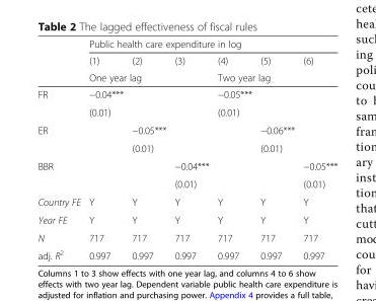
<table><thead><tr><td rowspan="3"></td><td colspan="6">Public health care expenditure in log</td></tr><tr><td>(1)</td><td>(2)</td><td>(3)</td><td>(4)</td><td>(5)</td><td>(6)</td></tr><tr><td colspan="3">One year lag</td><td colspan="3">Two year lag</td></tr></thead><tbody><tr><td rowspan="2">FR</td><td>−0.04***</td><td></td><td></td><td>−0.05***</td><td></td><td></td></tr><tr><td>(0.01)</td><td></td><td></td><td>(0.01)</td><td></td><td></td></tr><tr><td rowspan="2">ER</td><td></td><td>−0.05***</td><td></td><td></td><td>−0.06***</td><td></td></tr><tr><td></td><td>(0.01)</td><td></td><td></td><td>(0.01)</td><td></td></tr><tr><td rowspan="2">BBR</td><td></td><td></td><td>−0.04***</td><td></td><td></td><td>−0.05***</td></tr><tr><td></td><td></td><td>(0.01)</td><td></td><td></td><td>(0.01)</td></tr><tr><td>Country FE</td><td>Y</td><td>Y</td><td>Y</td><td>Y</td><td>Y</td><td>Y</td></tr><tr><td>Year FE</td><td>Y</td><td>Y</td><td>Y</td><td>Y</td><td>Y</td><td>Y</td></tr><tr><td>N</td><td>717</td><td>717</td><td>717</td><td>717</td><td>717</td><td>717</td></tr><tr><td>adj. R<sup>2</sup></td><td>0.997</td><td>0.997</td><td>0.997</td><td>0.997</td><td>0.997</td><td>0.997</td></tr></tbody></table>